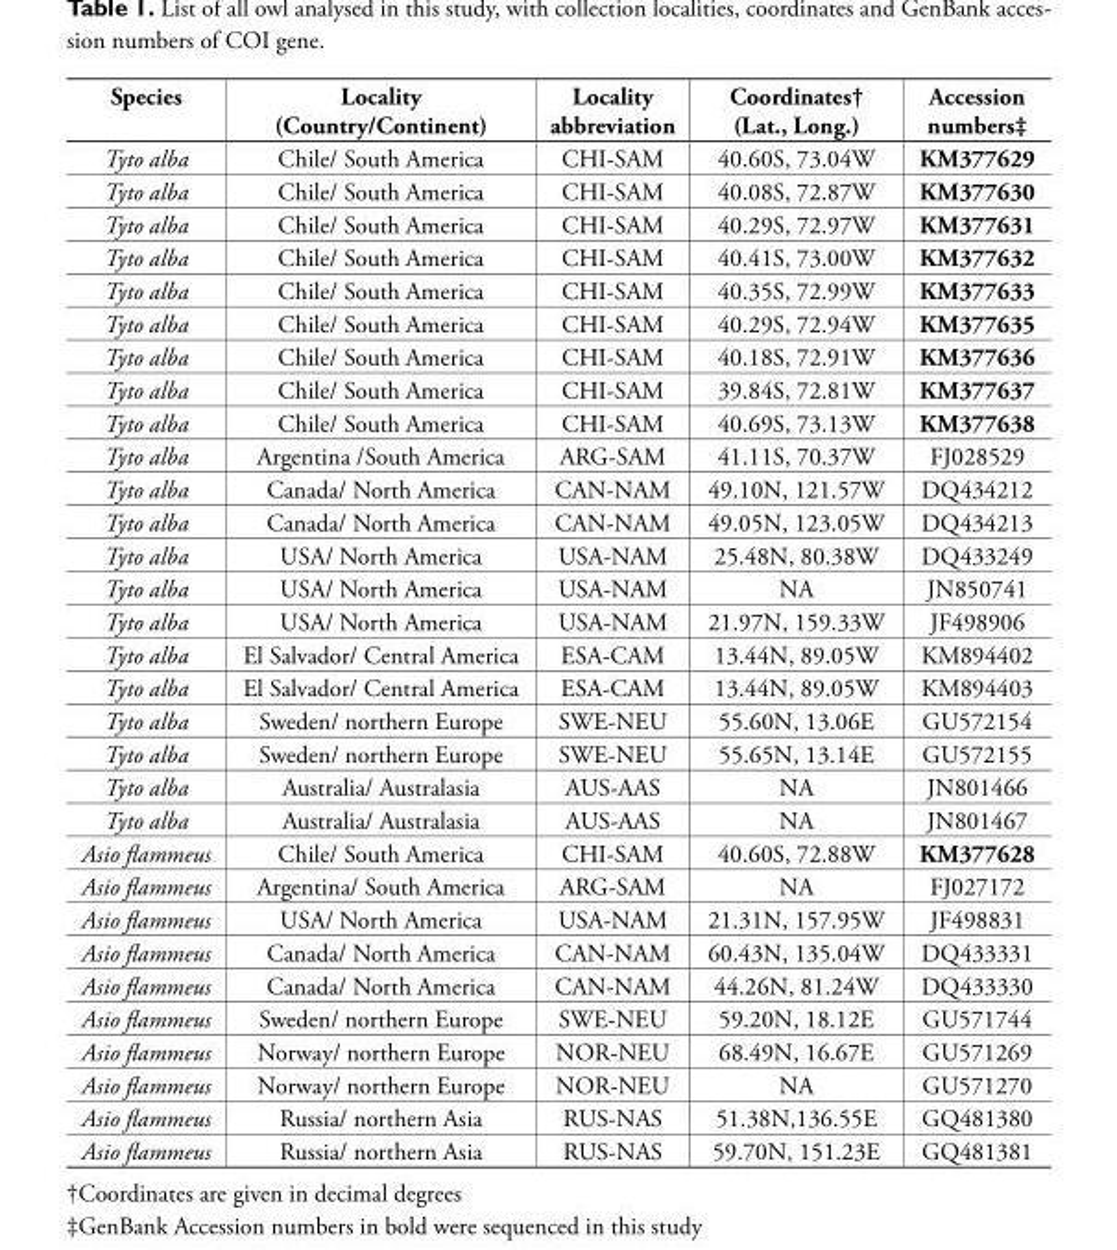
<table><thead><tr><td>Species</td><td>Locality (Country/Continent)</td><td>Locality abbreviation</td><td>Coordinates† (Lat., Long.)</td><td>Accession numbers‡</td></tr></thead><tbody><tr><td>Tyto alba</td><td>Chile/ South America</td><td>CHI-SAM</td><td>40.60S, 73.04W</td><td>KM377629</td></tr><tr><td>Tyto alba</td><td>Chile/ South America</td><td>CHI-SAM</td><td>40.08S, 72.87W</td><td>KM377630</td></tr><tr><td>Tyto alba</td><td>Chile/ South America</td><td>CHI-SAM</td><td>40.29S, 72.97W</td><td>KM377631</td></tr><tr><td>Tyto alba</td><td>Chile/ South America</td><td>CHI-SAM</td><td>40.41S, 73.00W</td><td>KM377632</td></tr><tr><td>Tyto alba</td><td>Chile/ South America</td><td>CHI-SAM</td><td>40.35S, 72.99W</td><td>KM377633</td></tr><tr><td>Tyto alba</td><td>Chile/ South America</td><td>CHI-SAM</td><td>40.29S, 72.94W</td><td>KM377635</td></tr><tr><td>Tyto alba</td><td>Chile/ South America</td><td>CHI-SAM</td><td>40.18S, 72.91W</td><td>KM377636</td></tr><tr><td>Tyto alba</td><td>Chile/ South America</td><td>CHI-SAM</td><td>39.84S, 72.81W</td><td>KM377637</td></tr><tr><td>Tyto alba</td><td>Chile/ South America</td><td>CHI-SAM</td><td>40.69S, 73.13W</td><td>KM377638</td></tr><tr><td>Tyto alba</td><td>Argentina /South America</td><td>ARG-SAM</td><td>41.11S, 70.37W</td><td>FJ028529</td></tr><tr><td>Tyto alba</td><td>Canada/ North America</td><td>CAN-NAM</td><td>49.10N, 121.57W</td><td>DQ434212</td></tr><tr><td>Tyto alba</td><td>Canada/ North America</td><td>CAN-NAM</td><td>49.05N, 123.05W</td><td>DQ434213</td></tr><tr><td>Tyto alba</td><td>USA/ North America</td><td>USA-NAM</td><td>25.48N, 80.38W</td><td>DQ433249</td></tr><tr><td>Tyto alba</td><td>USA/ North America</td><td>USA-NAM</td><td>NA</td><td>JN850741</td></tr><tr><td>Tyto alba</td><td>USA/ North America</td><td>USA-NAM</td><td>21.97N, 159.33W</td><td>JF498906</td></tr><tr><td>Tyto alba</td><td>El Salvador/ Central America</td><td>ESA-CAM</td><td>13.44N, 89.05W</td><td>KM894402</td></tr><tr><td>Tyto alba</td><td>El Salvador/ Central America</td><td>ESA-CAM</td><td>13.44N, 89.05W</td><td>KM894403</td></tr><tr><td>Tyto alba</td><td>Sweden/ northern Europe</td><td>SWE-NEU</td><td>55.60N, 13.06E</td><td>GU572154</td></tr><tr><td>Tyto alba</td><td>Sweden/ northern Europe</td><td>SWE-NEU</td><td>55.65N, 13.14E</td><td>GU572155</td></tr><tr><td>Tyto alba</td><td>Australia/ Australasia</td><td>AUS-AAS</td><td>NA</td><td>JN801466</td></tr><tr><td>Tyto alba</td><td>Australia/ Australasia</td><td>AUS-AAS</td><td>NA</td><td>JN801467</td></tr><tr><td>Asio flammeus</td><td>Chile/ South America</td><td>CHI-SAM</td><td>40.60S, 72.88W</td><td>KM377628</td></tr><tr><td>Asio flammeus</td><td>Argentina/ South America</td><td>ARG-SAM</td><td>NA</td><td>FJ027172</td></tr><tr><td>Asio flammeus</td><td>USA/ North America</td><td>USA-NAM</td><td>21.31N, 157.95W</td><td>JF498831</td></tr><tr><td>Asio flammeus</td><td>Canada/ North America</td><td>CAN-NAM</td><td>60.43N, 135.04W</td><td>DQ433331</td></tr><tr><td>Asio flammeus</td><td>Canada/ North America</td><td>CAN-NAM</td><td>44.26N, 81.24W</td><td>DQ433330</td></tr><tr><td>Asio flammeus</td><td>Sweden/ northern Europe</td><td>SWE-NEU</td><td>59.20N, 18.12E</td><td>GU571744</td></tr><tr><td>Asio flammeus</td><td>Norway/ northern Europe</td><td>NOR-NEU</td><td>68.49N, 16.67E</td><td>GU571269</td></tr><tr><td>Asio flammeus</td><td>Norway/ northern Europe</td><td>NOR-NEU</td><td>NA</td><td>GU571270</td></tr><tr><td>Asio flammeus</td><td>Russia/ northern Asia</td><td>RUS-NAS</td><td>51.38N,136.55E</td><td>GQ481380</td></tr><tr><td>Asio flammeus</td><td>Russia/ northern Asia</td><td>RUS-NAS</td><td>59.70N, 151.23E</td><td>GQ481381</td></tr></tbody></table>